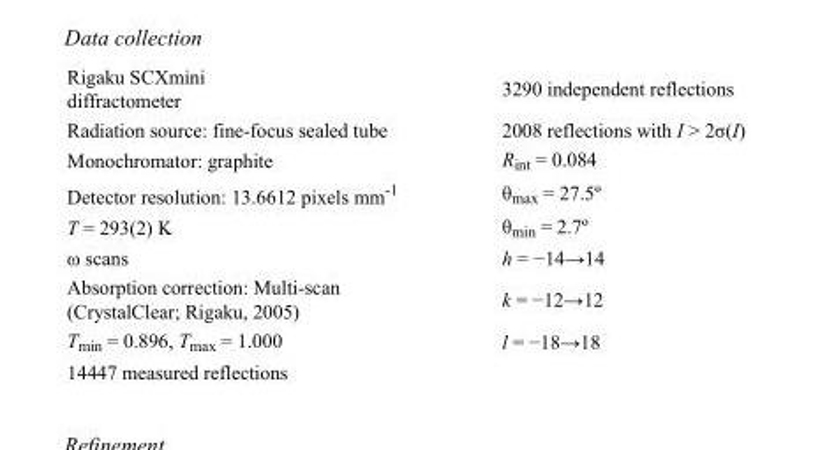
<table><tbody><tr><td>Rigaku SCXmini diffractometer</td><td>3290 independent reflections</td></tr><tr><td>Radiation source: fine-focus sealed tube</td><td>2008 reflections with I &gt; 2σ(I)</td></tr><tr><td>Monochromator: graphite</td><td>R<sub>int</sub> = 0.084</td></tr><tr><td>Detector resolution: 13.6612 pixels mm<sup>-1</sup></td><td>θ<sub>max</sub> = 27.5º</td></tr><tr><td>T = 293(2) K</td><td>θ<sub>min</sub> = 2.7º</td></tr><tr><td>ω scans</td><td>h = −14→14</td></tr><tr><td>Absorption correction: Multi-scan (CrystalClear; Rigaku, 2005)</td><td>k = −12→12</td></tr><tr><td>T<sub>min</sub> = 0.896, T<sub>max</sub> = 1.000</td><td>l = −18→18</td></tr><tr><td>14447 measured reflections</td><td></td></tr></tbody></table>